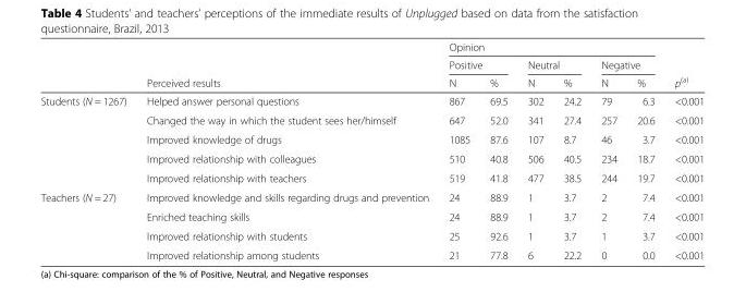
<table><thead><tr><td rowspan="3"></td><td rowspan="3">Perceived results</td><td colspan="6">Opinion</td><td rowspan="3">p<sup>(a)</sup></td></tr><tr><td colspan="2">Positive</td><td colspan="2">Neutral</td><td colspan="2">Negative</td></tr><tr><td>N</td><td>%</td><td>N</td><td>%</td><td>N</td><td>%</td></tr></thead><tbody><tr><td rowspan="5">Students (N = 1267)</td><td>Helped answer personal questions</td><td>867</td><td>69.5</td><td>302</td><td>24.2</td><td>79</td><td>6.3</td><td>&lt;0.001</td></tr><tr><td>Changed the way in which the student sees her/himself</td><td>647</td><td>52.0</td><td>341</td><td>27.4</td><td>257</td><td>20.6</td><td>&lt;0.001</td></tr><tr><td>Improved knowledge of drugs</td><td>1085</td><td>87.6</td><td>107</td><td>8.7</td><td>46</td><td>3.7</td><td>&lt;0.001</td></tr><tr><td>Improved relationship with colleagues</td><td>510</td><td>40.8</td><td>506</td><td>40.5</td><td>234</td><td>18.7</td><td>&lt;0.001</td></tr><tr><td>Improved relationship with teachers</td><td>519</td><td>41.8</td><td>477</td><td>38.5</td><td>244</td><td>19.7</td><td>&lt;0.001</td></tr><tr><td rowspan="4">Teachers (N = 27)</td><td>Improved knowledge and skills regarding drugs and prevention</td><td>24</td><td>88.9</td><td>1</td><td>3.7</td><td>2</td><td>7.4</td><td>&lt;0.001</td></tr><tr><td>Enriched teaching skills</td><td>24</td><td>88.9</td><td>1</td><td>3.7</td><td>2</td><td>7.4</td><td>&lt;0.001</td></tr><tr><td>Improved relationship with students</td><td>25</td><td>92.6</td><td>1</td><td>3.7</td><td>1</td><td>3.7</td><td>&lt;0.001</td></tr><tr><td>Improved relationship among students</td><td>21</td><td>77.8</td><td>6</td><td>22.2</td><td>0</td><td>0.0</td><td>&lt;0.001</td></tr></tbody></table>